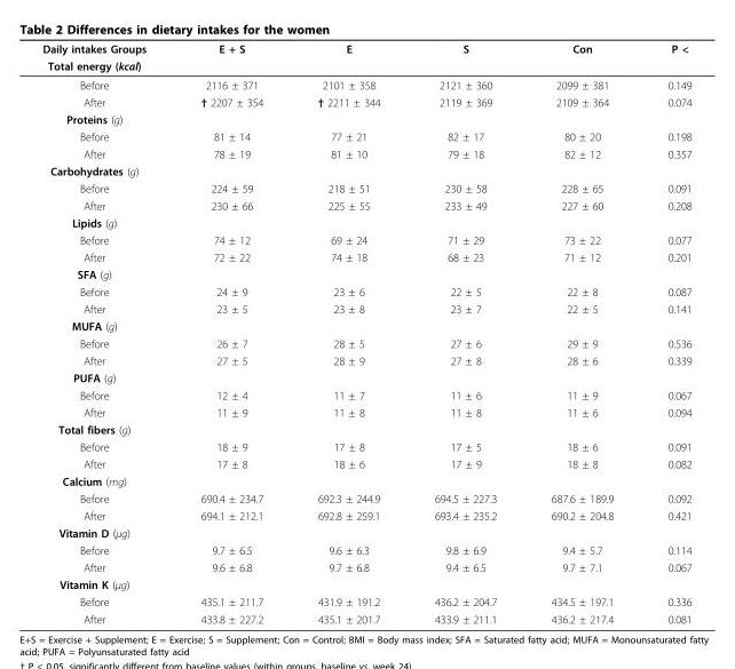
<table><thead><tr><td rowspan="2">Daily intakes Groups Total energy (kcal)</td><td rowspan="2">E + S</td><td rowspan="2">E</td><td rowspan="2">S</td><td rowspan="2">Con</td><td rowspan="2">P &lt;</td></tr><tr></tr></thead><tbody><tr><td>Before</td><td>2116 ± 371</td><td>2101 ± 358</td><td>2121 ± 360</td><td>2099 ± 381</td><td>0.149</td></tr><tr><td>After</td><td>† 2207 ± 354</td><td>† 2211 ± 344</td><td>2119 ± 369</td><td>2109 ± 364</td><td>0.074</td></tr><tr><td colspan="6">Proteins (g)</td></tr><tr><td>Before</td><td>81 ± 14</td><td>77 ± 21</td><td>82 ± 17</td><td>80 ± 20</td><td>0.198</td></tr><tr><td>After</td><td>78 ± 19</td><td>81 ± 10</td><td>79 ± 18</td><td>82 ± 12</td><td>0.357</td></tr><tr><td colspan="6">Carbohydrates (g)</td></tr><tr><td>Before</td><td>224 ± 59</td><td>218 ± 51</td><td>230 ± 58</td><td>228 ± 65</td><td>0.091</td></tr><tr><td>After</td><td>230 ± 66</td><td>225 ± 55</td><td>233 ± 49</td><td>227 ± 60</td><td>0.208</td></tr><tr><td colspan="6">Lipids (g)</td></tr><tr><td>Before</td><td>74 ± 12</td><td>69 ± 24</td><td>71 ± 29</td><td>73 ± 22</td><td>0.077</td></tr><tr><td>After</td><td>72 ± 22</td><td>74 ± 18</td><td>68 ± 23</td><td>71 ± 12</td><td>0.201</td></tr><tr><td colspan="6">SFA (g)</td></tr><tr><td>Before</td><td>24 ± 9</td><td>23 ± 6</td><td>22 ± 5</td><td>22 ± 8</td><td>0.087</td></tr><tr><td>After</td><td>23 ± 5</td><td>23 ± 8</td><td>23 ± 7</td><td>22 ± 5</td><td>0.141</td></tr><tr><td colspan="6">MUFA (g)</td></tr><tr><td>Before</td><td>26 ± 7</td><td>28 ± 5</td><td>27 ± 6</td><td>29 ± 9</td><td>0.536</td></tr><tr><td>After</td><td>27 ± 5</td><td>28 ± 9</td><td>27 ± 8</td><td>28 ± 6</td><td>0.339</td></tr><tr><td colspan="6">PUFA (g)</td></tr><tr><td>Before</td><td>12 ± 4</td><td>11 ± 7</td><td>11 ± 6</td><td>11 ± 9</td><td>0.067</td></tr><tr><td>After</td><td>11 ± 9</td><td>11 ± 8</td><td>11 ± 8</td><td>11 ± 6</td><td>0.094</td></tr><tr><td colspan="6">Total fibers (g)</td></tr><tr><td>Before</td><td>18 ± 9</td><td>17 ± 8</td><td>17 ± 5</td><td>18 ± 6</td><td>0.091</td></tr><tr><td>After</td><td>17 ± 8</td><td>18 ± 6</td><td>17 ± 9</td><td>18 ± 8</td><td>0.082</td></tr><tr><td colspan="6">Calcium (mg)</td></tr><tr><td>Before</td><td>690.4 ± 234.7</td><td>692.3 ± 244.9</td><td>694.5 ± 227.3</td><td>687.6 ± 189.9</td><td>0.092</td></tr><tr><td>After</td><td>694.1 ± 212.1</td><td>692.8 ± 259.1</td><td>693.4 ± 235.2</td><td>690.2 ± 204.8</td><td>0.421</td></tr><tr><td colspan="6">Vitamin D (μg)</td></tr><tr><td>Before</td><td>9.7 ± 6.5</td><td>9.6 ± 6.3</td><td>9.8 ± 6.9</td><td>9.4 ± 5.7</td><td>0.114</td></tr><tr><td>After</td><td>9.6 ± 6.8</td><td>9.7 ± 6.8</td><td>9.4 ± 6.5</td><td>9.7 ± 7.1</td><td>0.067</td></tr><tr><td colspan="6">Vitamin K (μg)</td></tr><tr><td>Before</td><td>435.1 ± 211.7</td><td>431.9 ± 191.2</td><td>436.2 ± 204.7</td><td>434.5 ± 197.1</td><td>0.336</td></tr><tr><td>After</td><td>433.8 ± 227.2</td><td>435.1 ± 201.7</td><td>433.9 ± 211.1</td><td>436.2 ± 217.4</td><td>0.081</td></tr></tbody></table>